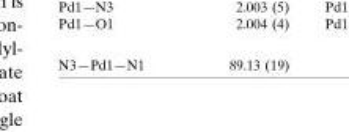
<table><tbody><tr><td>N3—Pd1—N1</td><td>89.13 (19)</td></tr></tbody></table>